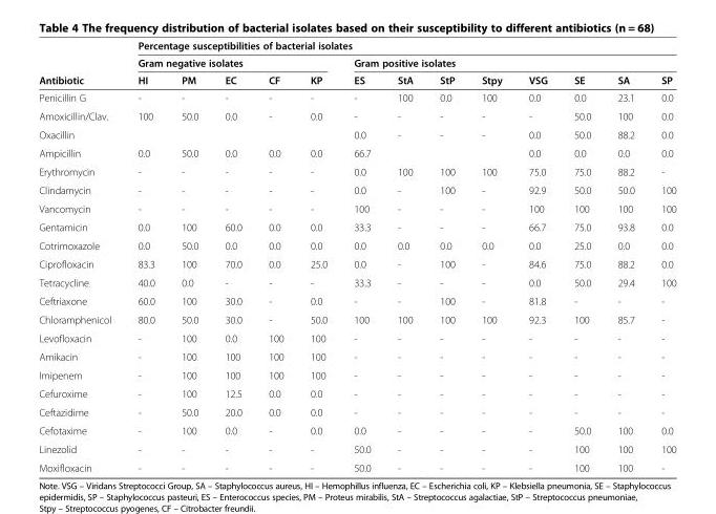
<table><thead><tr><td rowspan="3">Antibiotic</td><td colspan="13">Percentage susceptibilities of bacterial isolates</td></tr><tr><td colspan="5">Gram negative isolates</td><td colspan="8">Gram positive isolates</td></tr><tr><td>HI</td><td>PM</td><td>EC</td><td>CF</td><td>KP</td><td>ES</td><td>StA</td><td>StP</td><td>Stpy</td><td>VSG</td><td>SE</td><td>SA</td><td>SP</td></tr></thead><tbody><tr><td>Penicillin G</td><td>-</td><td>-</td><td>-</td><td>-</td><td>-</td><td>-</td><td>100</td><td>0.0</td><td>100</td><td>0.0</td><td>0.0</td><td>23.1</td><td>0.0</td></tr><tr><td>Amoxicillin/Clav.</td><td>100</td><td>50.0</td><td>0.0</td><td>-</td><td>0.0</td><td>-</td><td>-</td><td>-</td><td>-</td><td>-</td><td>50.0</td><td>100</td><td>0.0</td></tr><tr><td>Oxacillin</td><td></td><td></td><td></td><td></td><td></td><td>0.0</td><td>-</td><td>-</td><td>-</td><td>0.0</td><td>50.0</td><td>88.2</td><td>0.0</td></tr><tr><td>Ampicillin</td><td>0.0</td><td>50.0</td><td>0.0</td><td>0.0</td><td>0.0</td><td>66.7</td><td></td><td></td><td></td><td>0.0</td><td>0.0</td><td>0.0</td><td>0.0</td></tr><tr><td>Erythromycin</td><td>-</td><td>-</td><td>-</td><td>-</td><td>-</td><td>0.0</td><td>100</td><td>100</td><td>100</td><td>75.0</td><td>75.0</td><td>88.2</td><td>-</td></tr><tr><td>Clindamycin</td><td>-</td><td>-</td><td>-</td><td>-</td><td>-</td><td>0.0</td><td>-</td><td>100</td><td>-</td><td>92.9</td><td>50.0</td><td>50.0</td><td>100</td></tr><tr><td>Vancomycin</td><td>-</td><td>-</td><td>-</td><td>-</td><td>-</td><td>100</td><td>-</td><td>-</td><td>-</td><td>100</td><td>100</td><td>100</td><td>100</td></tr><tr><td>Gentamicin</td><td>0.0</td><td>100</td><td>60.0</td><td>0.0</td><td>0.0</td><td>33.3</td><td>-</td><td>-</td><td>-</td><td>66.7</td><td>75.0</td><td>93.8</td><td>0.0</td></tr><tr><td>Cotrimoxazole</td><td>0.0</td><td>50.0</td><td>0.0</td><td>0.0</td><td>0.0</td><td>0.0</td><td>0.0</td><td>0.0</td><td>0.0</td><td>0.0</td><td>25.0</td><td>0.0</td><td>0.0</td></tr><tr><td>Ciprofloxacin</td><td>83.3</td><td>100</td><td>70.0</td><td>0.0</td><td>25.0</td><td>0.0</td><td>-</td><td>100</td><td>-</td><td>84.6</td><td>75.0</td><td>88.2</td><td>0.0</td></tr><tr><td>Tetracycline</td><td>40.0</td><td>0.0</td><td>-</td><td>-</td><td>-</td><td>33.3</td><td>-</td><td>-</td><td>-</td><td>0.0</td><td>50.0</td><td>29.4</td><td>100</td></tr><tr><td>Ceftriaxone</td><td>60.0</td><td>100</td><td>30.0</td><td>-</td><td>0.0</td><td>-</td><td>-</td><td>100</td><td>-</td><td>81.8</td><td>-</td><td>-</td><td>-</td></tr><tr><td>Chloramphenicol</td><td>80.0</td><td>50.0</td><td>30.0</td><td>-</td><td>50.0</td><td>100</td><td>100</td><td>100</td><td>100</td><td>92.3</td><td>100</td><td>85.7</td><td>-</td></tr><tr><td>Levofloxacin</td><td>-</td><td>100</td><td>0.0</td><td>100</td><td>100</td><td>-</td><td>-</td><td>-</td><td>-</td><td>-</td><td>-</td><td>-</td><td>-</td></tr><tr><td>Amikacin</td><td>-</td><td>100</td><td>100</td><td>100</td><td>100</td><td>-</td><td>-</td><td>-</td><td>-</td><td>-</td><td>-</td><td>-</td><td>-</td></tr><tr><td>Imipenem</td><td>-</td><td>100</td><td>100</td><td>100</td><td>100</td><td>-</td><td>-</td><td>-</td><td>-</td><td>-</td><td>-</td><td>-</td><td>-</td></tr><tr><td>Cefuroxime</td><td>-</td><td>100</td><td>12.5</td><td>0.0</td><td>0.0</td><td>-</td><td>-</td><td>-</td><td>-</td><td>-</td><td>-</td><td>-</td><td>-</td></tr><tr><td>Ceftazidime</td><td>-</td><td>50.0</td><td>20.0</td><td>0.0</td><td>0.0</td><td>-</td><td>-</td><td>-</td><td>-</td><td>-</td><td>-</td><td>-</td><td>-</td></tr><tr><td>Cefotaxime</td><td>-</td><td>100</td><td>0.0</td><td>-</td><td>0.0</td><td>0.0</td><td>-</td><td>-</td><td>-</td><td>-</td><td>50.0</td><td>100</td><td>0.0</td></tr><tr><td>Linezolid</td><td>-</td><td>-</td><td>-</td><td>-</td><td>-</td><td>50.0</td><td>-</td><td>-</td><td>-</td><td>-</td><td>100</td><td>100</td><td>100</td></tr><tr><td>Moxifloxacin</td><td>-</td><td>-</td><td>-</td><td>-</td><td>-</td><td>50.0</td><td>-</td><td>-</td><td>-</td><td>-</td><td>100</td><td>100</td><td>-</td></tr></tbody></table>